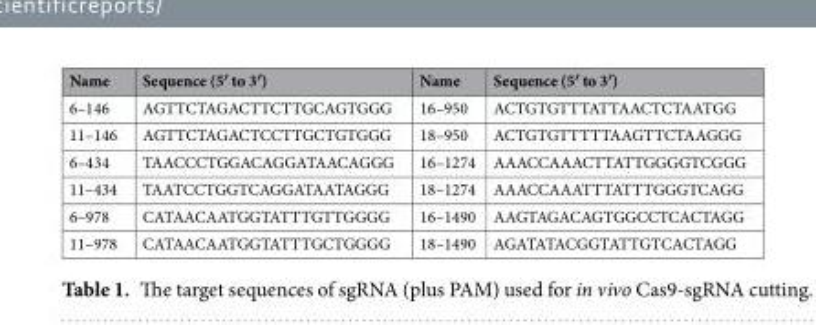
<table><thead><tr><td>Name</td><td>Sequence (5′ to 3′)</td><td>Name</td><td>Sequence (5′ to 3′)</td></tr></thead><tbody><tr><td>6–146</td><td>AGTTCTAGACTTCTTGCAGTGGG</td><td>16–950</td><td>ACTGTGTTTATTAACTCTAATGG</td></tr><tr><td>11–146</td><td>AGTTCTAGACTCCTTGCTGTGGG</td><td>18–950</td><td>ACTGTGTTTTTAAGTTCTAAGGG</td></tr><tr><td>6–434</td><td>TAACCCTGGACAGGATAACAGGG</td><td>16–1274</td><td>AAACCAAACTTATTGGGGTCGGG</td></tr><tr><td>11–434</td><td>TAATCCTGGTCAGGATAATAGGG</td><td>18–1274</td><td>AAACCAAATTTATTTGGGTCAGG</td></tr><tr><td>6–978</td><td>CATAACAATGGTATTTGTTGGGG</td><td>16–1490</td><td>AAGTAGACAGTGGCCTCACTAGG</td></tr><tr><td>11–978</td><td>CATAACAATGGTATTTGCTGGGG</td><td>18–1490</td><td>AGATATACGGTATTGTCACTAGG</td></tr></tbody></table>